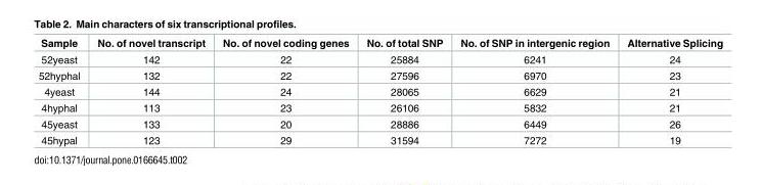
<table><thead><tr><td>Sample</td><td>No. of novel transcript</td><td>No. of novel coding genes</td><td>No. of total SNP</td><td>No. of SNP in intergenic region</td><td>Alternative Splicing</td></tr></thead><tbody><tr><td>52yeast</td><td>142</td><td>22</td><td>25884</td><td>6241</td><td>24</td></tr><tr><td>52hyphal</td><td>132</td><td>22</td><td>27596</td><td>6970</td><td>23</td></tr><tr><td>4yeast</td><td>144</td><td>24</td><td>28065</td><td>6629</td><td>21</td></tr><tr><td>4hyphal</td><td>113</td><td>23</td><td>26106</td><td>5832</td><td>21</td></tr><tr><td>45yeast</td><td>133</td><td>20</td><td>28886</td><td>6449</td><td>26</td></tr><tr><td>45hypal</td><td>123</td><td>29</td><td>31594</td><td>7272</td><td>19</td></tr></tbody></table>